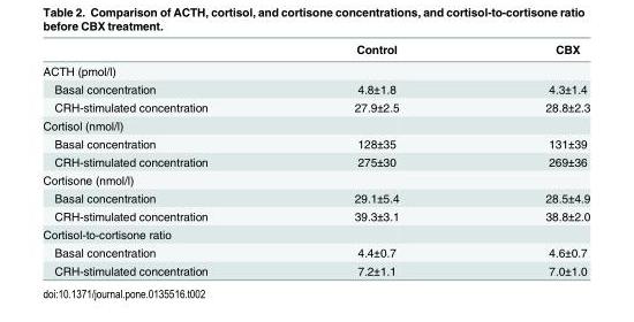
<table><thead><tr><td></td><td>Control</td><td>CBX</td></tr></thead><tbody><tr><td colspan="3">ACTH (pmol/l)</td></tr><tr><td>Basal concentration</td><td>4.8±1.8</td><td>4.3±1.4</td></tr><tr><td>CRH-stimulated concentration</td><td>27.9±2.5</td><td>28.8±2.3</td></tr><tr><td colspan="3">Cortisol (nmol/l)</td></tr><tr><td>Basal concentration</td><td>128±35</td><td>131±39</td></tr><tr><td>CRH-stimulated concentration</td><td>275±30</td><td>269±36</td></tr><tr><td colspan="3">Cortisone (nmol/l)</td></tr><tr><td>Basal concentration</td><td>29.1±5.4</td><td>28.5±4.9</td></tr><tr><td>CRH-stimulated concentration</td><td>39.3±3.1</td><td>38.8±2.0</td></tr><tr><td colspan="3">Cortisol-to-cortisone ratio</td></tr><tr><td>Basal concentration</td><td>4.4±0.7</td><td>4.6±0.7</td></tr><tr><td>CRH-stimulated concentration</td><td>7.2±1.1</td><td>7.0±1.0</td></tr></tbody></table>